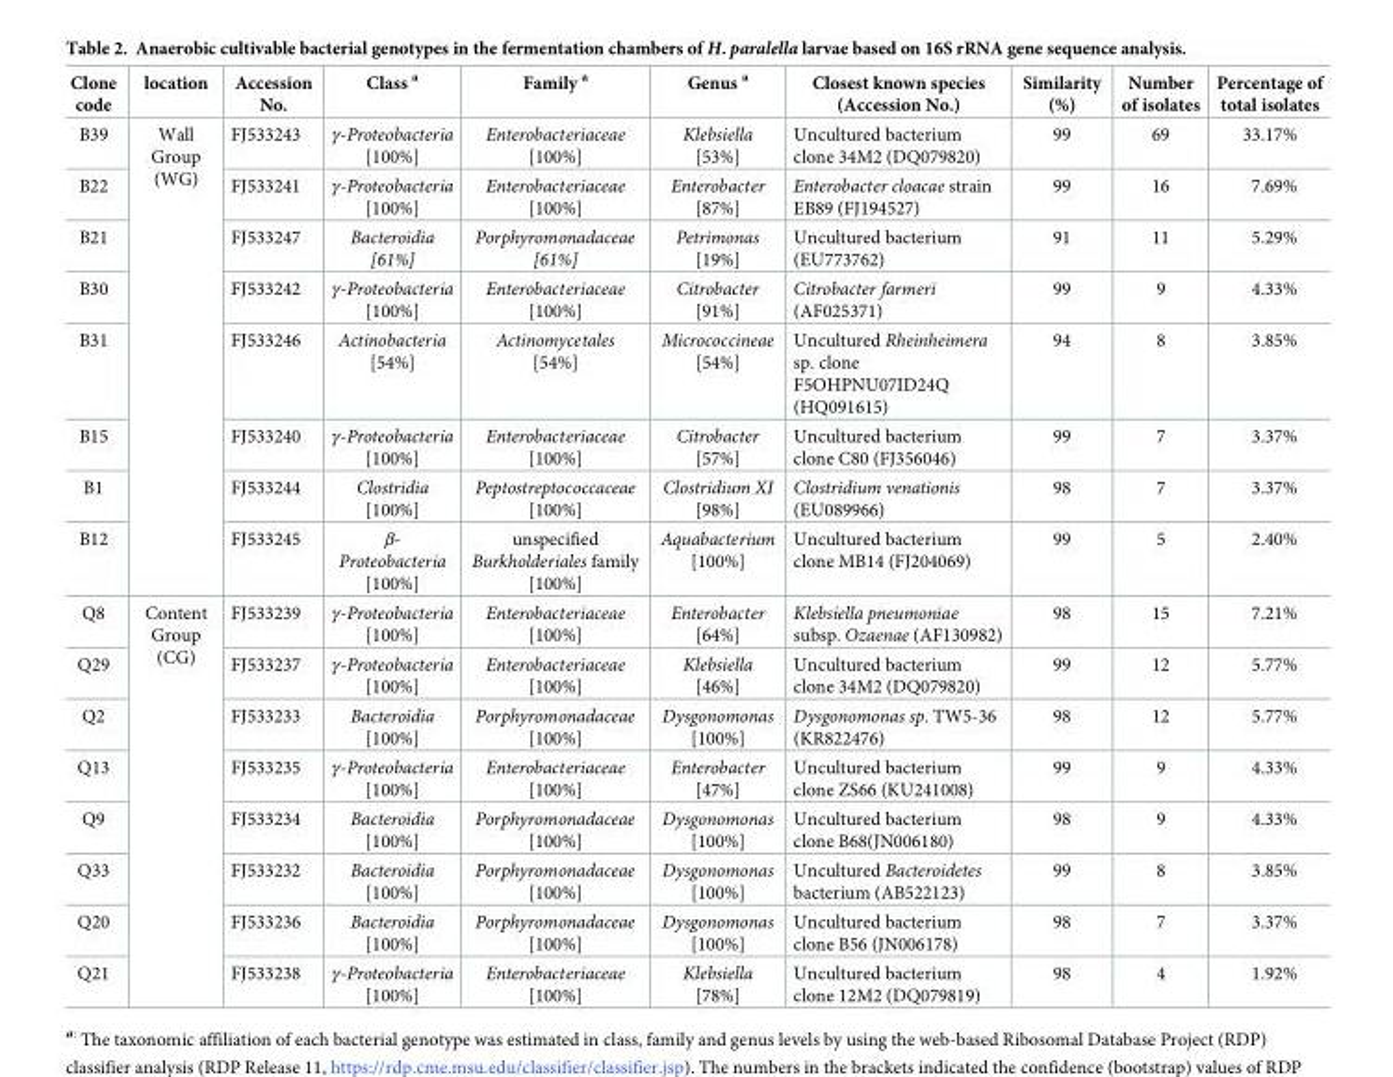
<table><thead><tr><td>Clone code</td><td>location</td><td>Accession No.</td><td>Class <sup>a</sup></td><td>Family <sup>a</sup></td><td>Genus <sup>a</sup></td><td>Closest known species (Accession No.)</td><td>Similarity (%)</td><td>Number of isolates</td><td>Percentage of total isolates</td></tr></thead><tbody><tr><td>B39</td><td rowspan="8">Wall Group (WG)</td><td>FJ533243</td><td>γ-Proteobacteria [100%]</td><td>Enterobacteriaceae [100%]</td><td>Klebsiella [53%]</td><td>Uncultured bacterium clone 34M2 (DQ079820)</td><td>99</td><td>69</td><td>33.17%</td></tr><tr><td>B22</td><td>FJ533241</td><td>γ-Proteobacteria [100%]</td><td>Enterobacteriaceae [100%]</td><td>Enterobacter [87%]</td><td>Enterobacter cloacae strain EB89 (FJ194527)</td><td>99</td><td>16</td><td>7.69%</td></tr><tr><td>B21</td><td>FJ533247</td><td>Bacteroidia [61%]</td><td>Porphyromonadaceae [61%]</td><td>Petrimonas [19%]</td><td>Uncultured bacterium (EU773762)</td><td>91</td><td>11</td><td>5.29%</td></tr><tr><td>B30</td><td>FJ533242</td><td>γ-Proteobacteria [100%]</td><td>Enterobacteriaceae [100%]</td><td>Citrobacter [91%]</td><td>Citrobacter farmeri (AF025371)</td><td>99</td><td>9</td><td>4.33%</td></tr><tr><td>B31</td><td>FJ533246</td><td>Actinobacteria [54%]</td><td>Actinomycetales [54%]</td><td>Micrococcineae [54%]</td><td>Uncultured Rheinheimera sp. clone F5OHPNU07ID24Q (HQ091615)</td><td>94</td><td>8</td><td>3.85%</td></tr><tr><td>B15</td><td>FJ533240</td><td>γ-Proteobacteria [100%]</td><td>Enterobacteriaceae [100%]</td><td>Citrobacter [57%]</td><td>Uncultured bacterium clone C80 (FJ356046)</td><td>99</td><td>7</td><td>3.37%</td></tr><tr><td>B1</td><td>FJ533244</td><td>Clostridia [100%]</td><td>Peptostreptococcaceae [100%]</td><td>Clostridium XI [98%]</td><td>Clostridium venationis (EU089966)</td><td>98</td><td>7</td><td>3.37%</td></tr><tr><td>B12</td><td>FJ533245</td><td>β- Proteobacteria [100%]</td><td>unspecified Burkholderiales family [100%]</td><td>Aquabacterium [100%]</td><td>Uncultured bacterium clone MB14 (FJ204069)</td><td>99</td><td>5</td><td>2.40%</td></tr><tr><td>Q8</td><td rowspan="8">Content Group (CG)</td><td>FJ533239</td><td>γ-Proteobacteria [100%]</td><td>Enterobacteriaceae [100%]</td><td>Enterobacter [64%]</td><td>Klebsiella pneumoniae subsp. Ozaenae (AF130982)</td><td>98</td><td>15</td><td>7.21%</td></tr><tr><td>Q29</td><td>FJ533237</td><td>γ-Proteobacteria [100%]</td><td>Enterobacteriaceae [100%]</td><td>Klebsiella [46%]</td><td>Uncultured bacterium clone 34M2 (DQ079820)</td><td>99</td><td>12</td><td>5.77%</td></tr><tr><td>Q2</td><td>FJ533233</td><td>Bacteroidia [100%]</td><td>Porphyromonadaceae [100%]</td><td>Dysgonomonas [100%]</td><td>Dysgonomonas sp. TW5-36 (KR822476)</td><td>98</td><td>12</td><td>5.77%</td></tr><tr><td>Q13</td><td>FJ533235</td><td>γ-Proteobacteria [100%]</td><td>Enterobacteriaceae [100%]</td><td>Enterobacter [47%]</td><td>Uncultured bacterium clone ZS66 (KU241008)</td><td>99</td><td>9</td><td>4.33%</td></tr><tr><td>Q9</td><td>FJ533234</td><td>Bacteroidia [100%]</td><td>Porphyromonadaceae [100%]</td><td>Dysgonomonas [100%]</td><td>Uncultured bacterium clone B68(JN006180)</td><td>98</td><td>9</td><td>4.33%</td></tr><tr><td>Q33</td><td>FJ533232</td><td>Bacteroidia [100%]</td><td>Porphyromonadaceae [100%]</td><td>Dysgonomonas [100%]</td><td>Uncultured Bacteroidetes bacterium (AB522123)</td><td>99</td><td>8</td><td>3.85%</td></tr><tr><td>Q20</td><td>FJ533236</td><td>Bacteroidia [100%]</td><td>Porphyromonadaceae [100%]</td><td>Dysgonomonas [100%]</td><td>Uncultured bacterium clone B56 (JN006178)</td><td>98</td><td>7</td><td>3.37%</td></tr><tr><td>Q21</td><td>FJ533238</td><td>γ-Proteobacteria [100%]</td><td>Enterobacteriaceae [100%]</td><td>Klebsiella [78%]</td><td>Uncultured bacterium clone 12M2 (DQ079819)</td><td>98</td><td>4</td><td>1.92%</td></tr></tbody></table>